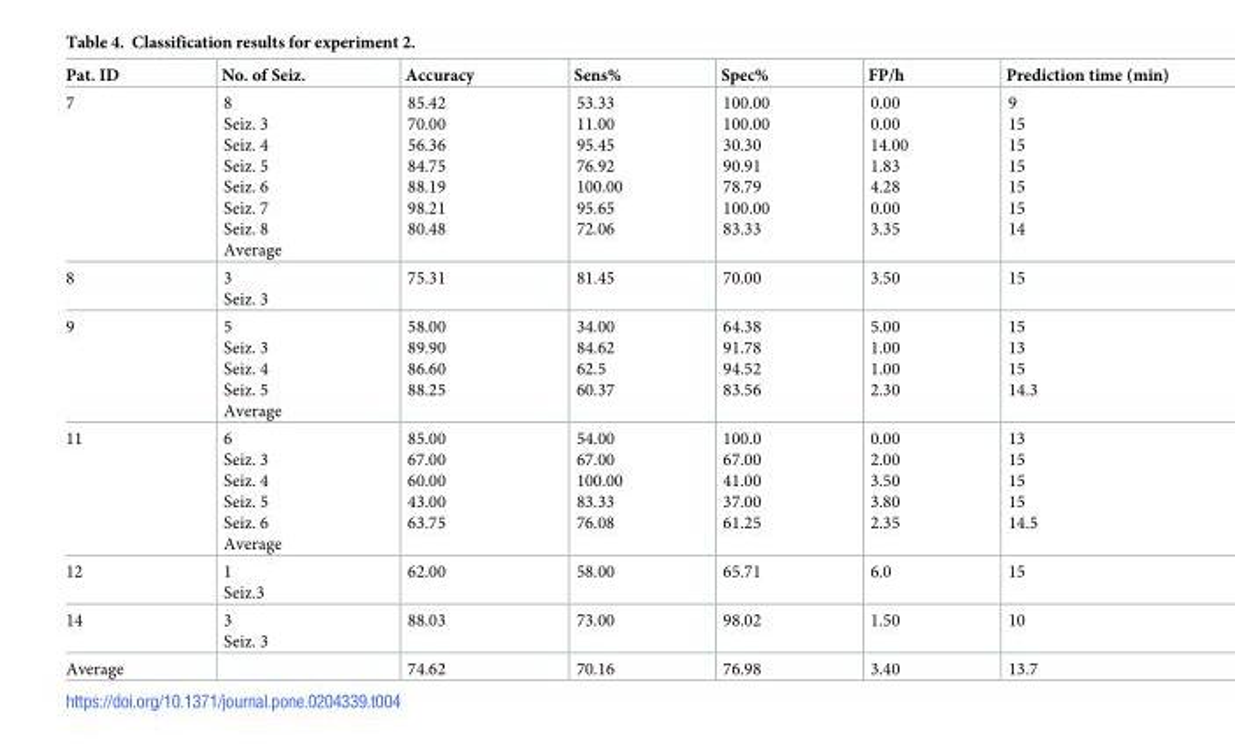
<table><thead><tr><td>Pat. ID</td><td>No. of Seiz.</td><td>Accuracy</td><td>Sens%</td><td>Spec%</td><td>FP/h</td><td>Prediction time (min)</td></tr></thead><tbody><tr><td>7</td><td>8 Seiz. 3 Seiz. 4 Seiz. 5 Seiz. 6 Seiz. 7 Seiz. 8 Average</td><td>85.42 70.00 56.36 84.75 88.19 98.21 80.48</td><td>53.33 11.00 95.45 76.92 100.00 95.65 72.06</td><td>100.00 100.00 30.30 90.91 78.79 100.00 83.33</td><td>0.00 0.00 14.00 1.83 4.28 0.00 3.35</td><td>9 15 15 15 15 15 14</td></tr><tr><td>8</td><td>3 Seiz. 3</td><td>75.31</td><td>81.45</td><td>70.00</td><td>3.50</td><td>15</td></tr><tr><td>9</td><td>5 Seiz. 3 Seiz. 4 Seiz. 5 Average</td><td>58.00 89.90 86.60 88.25</td><td>34.00 84.62 62.5 60.37</td><td>64.38 91.78 94.52 83.56</td><td>5.00 1.00 1.00 2.30</td><td>15 13 15 14.3</td></tr><tr><td>11</td><td>6 Seiz. 3 Seiz. 4 Seiz. 5 Seiz. 6 Average</td><td>85.00 67.00 60.00 43.00 63.75</td><td>54.00 67.00 100.00 83.33 76.08</td><td>100.0 67.00 41.00 37.00 61.25</td><td>0.00 2.00 3.50 3.80 2.35</td><td>13 15 15 15 14.5</td></tr><tr><td>12</td><td>1 Seiz.3</td><td>62.00</td><td>58.00</td><td>65.71</td><td>6.0</td><td>15</td></tr><tr><td>14</td><td>3 Seiz. 3</td><td>88.03</td><td>73.00</td><td>98.02</td><td>1.50</td><td>10</td></tr><tr><td>Average</td><td></td><td>74.62</td><td>70.16</td><td>76.98</td><td>3.40</td><td>13.7</td></tr></tbody></table>